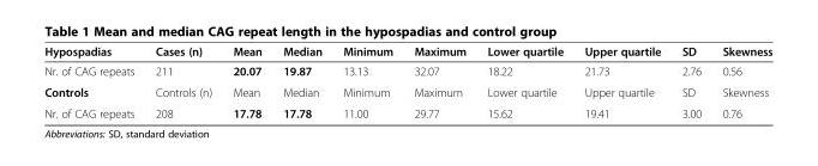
<table><thead><tr><td>Hypospadias</td><td>Cases (n)</td><td>Mean</td><td>Median</td><td>Minimum</td><td>Maximum</td><td>Lower quartile</td><td>Upper quartile</td><td>SD</td><td>Skewness</td></tr></thead><tbody><tr><td>Nr. of CAG repeats</td><td>211</td><td>20.07</td><td>19.87</td><td>13.13</td><td>32.07</td><td>18.22</td><td>21.73</td><td>2.76</td><td>0.56</td></tr><tr><td>Controls</td><td>Controls (n)</td><td>Mean</td><td>Median</td><td>Minimum</td><td>Maximum</td><td>Lower quartile</td><td>Upper quartile</td><td>SD</td><td>Skewness</td></tr><tr><td>Nr. of CAG repeats</td><td>208</td><td>17.78</td><td>17.78</td><td>11.00</td><td>29.77</td><td>15.62</td><td>19.41</td><td>3.00</td><td>0.76</td></tr></tbody></table>